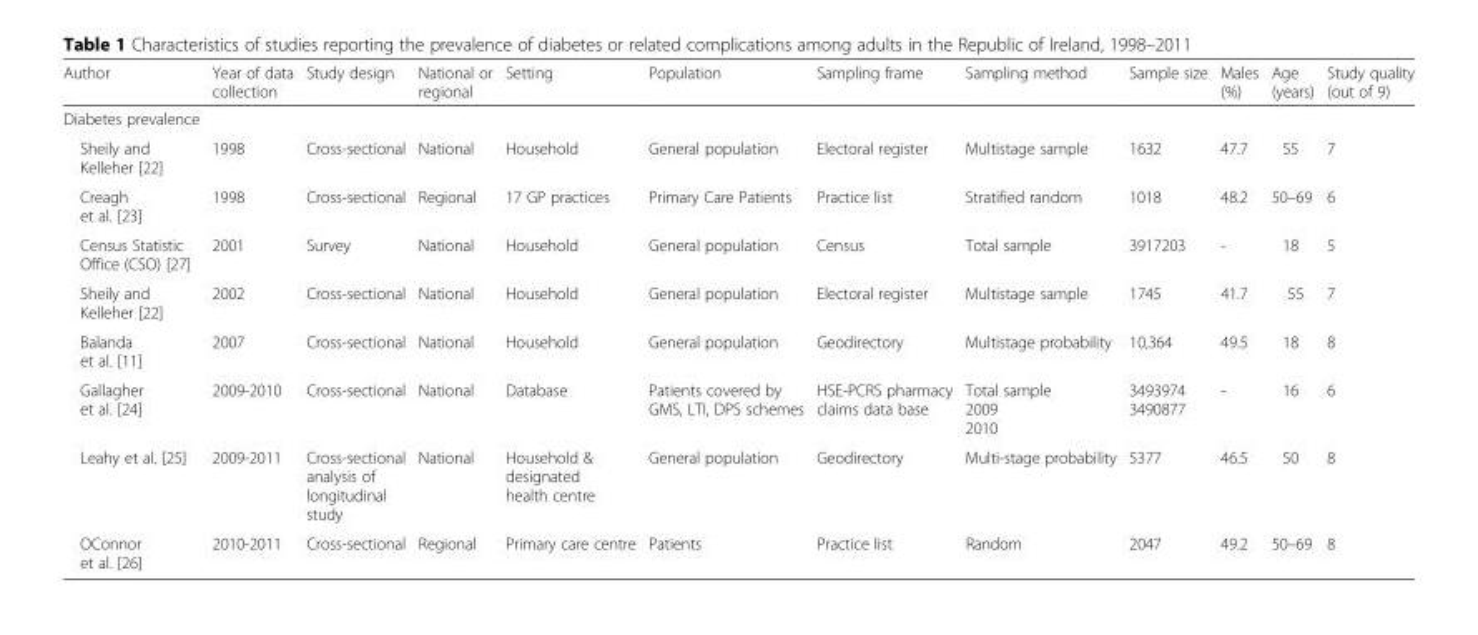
<table><thead><tr><td>Author</td><td>Year of data collection</td><td>Study design</td><td>National or regional</td><td>Setting</td><td>Population</td><td>Sampling frame</td><td>Sampling method</td><td>Sample size</td><td>Males (%)</td><td>Age (years)</td><td>Study quality (out of 9)</td></tr></thead><tbody><tr><td colspan="12">Diabetes prevalence</td></tr><tr><td>Sheily and Kelleher [22]</td><td>1998</td><td>Cross-sectional</td><td>National</td><td>Household</td><td>General population</td><td>Electoral register</td><td>Multistage sample</td><td>1632</td><td>47.7</td><td>55</td><td>7</td></tr><tr><td>Creagh et al. [23]</td><td>1998</td><td>Cross-sectional</td><td>Regional</td><td>17 GP practices</td><td>Primary Care Patients</td><td>Practice list</td><td>Stratified random</td><td>1018</td><td>48.2</td><td>50–69</td><td>6</td></tr><tr><td>Census Statistic Office (CSO) [27]</td><td>2001</td><td>Survey</td><td>National</td><td>Household</td><td>General population</td><td>Census</td><td>Total sample</td><td>3917203</td><td>-</td><td>18</td><td>5</td></tr><tr><td>Sheily and Kelleher [22]</td><td>2002</td><td>Cross-sectional</td><td>National</td><td>Household</td><td>General population</td><td>Electoral register</td><td>Multistage sample</td><td>1745</td><td>41.7</td><td>55</td><td>7</td></tr><tr><td>Balanda et al. [11]</td><td>2007</td><td>Cross-sectional</td><td>National</td><td>Household</td><td>General population</td><td>Geodirectory</td><td>Multistage probability</td><td>10,364</td><td>49.5</td><td>18</td><td>8</td></tr><tr><td>Gallagher et al. [24]</td><td>2009-2010</td><td>Cross-sectional</td><td>National</td><td>Database</td><td>Patients covered by GMS, LTI, DPS schemes</td><td>HSE-PCRS pharmacy claims data base</td><td>Total sample 2009 2010</td><td>3493974 3490877</td><td>-</td><td>16</td><td>6</td></tr><tr><td>Leahy et al. [25]</td><td>2009-2011</td><td>Cross-sectional analysis of longitudinal study</td><td>National</td><td>Household &amp; designated health centre</td><td>General population</td><td>Geodirectory</td><td>Multi-stage probability</td><td>5377</td><td>46.5</td><td>50</td><td>8</td></tr><tr><td>OConnor et al. [26]</td><td>2010-2011</td><td>Cross-sectional</td><td>Regional</td><td>Primary care centre</td><td>Patients</td><td>Practice list</td><td>Random</td><td>2047</td><td>49.2</td><td>50–69</td><td>8</td></tr></tbody></table>